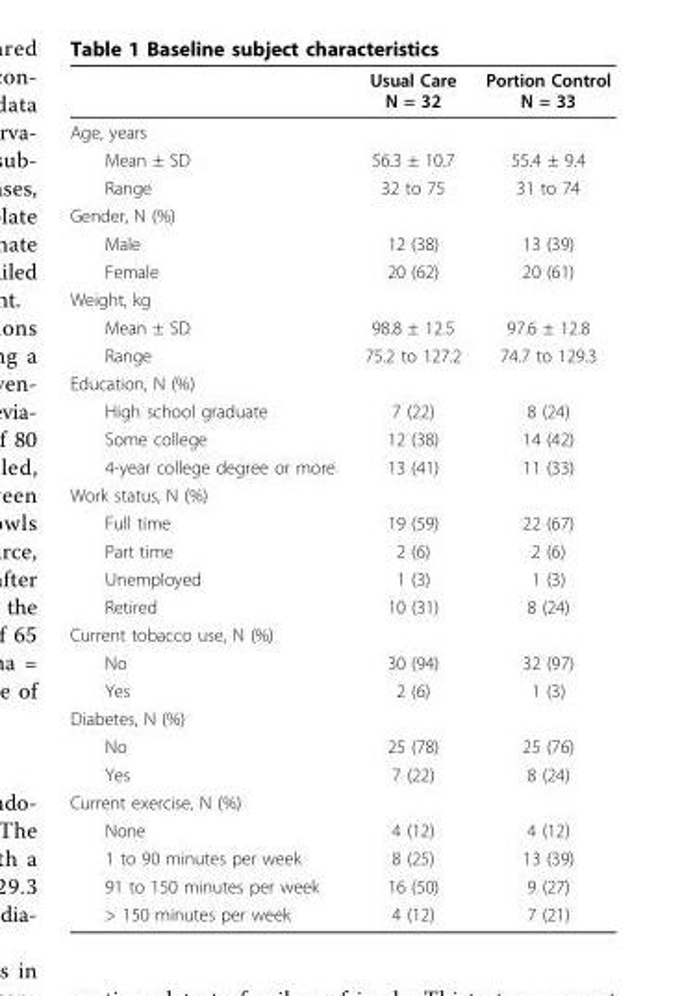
<table><thead><tr><td></td><td>Usual Care N = 32</td><td>Portion Control N = 33</td></tr></thead><tbody><tr><td colspan="3">Age, years</td></tr><tr><td>Mean ± SD</td><td>56.3 ± 10.7</td><td>55.4 ± 9.4</td></tr><tr><td>Range</td><td>32 to 75</td><td>31 to 74</td></tr><tr><td colspan="3">Gender, N (%)</td></tr><tr><td>Male</td><td>12 (38)</td><td>13 (39)</td></tr><tr><td>Female</td><td>20 (62)</td><td>20 (61)</td></tr><tr><td colspan="3">Weight, kg</td></tr><tr><td>Mean ± SD</td><td>98.8 ± 12.5</td><td>97.6 ± 12.8</td></tr><tr><td>Range</td><td>75.2 to 127.2</td><td>74.7 to 129.3</td></tr><tr><td colspan="3">Education, N (%)</td></tr><tr><td>High school graduate</td><td>7 (22)</td><td>8 (24)</td></tr><tr><td>Some college</td><td>12 (38)</td><td>14 (42)</td></tr><tr><td>4-year college degree or more</td><td>13 (41)</td><td>11 (33)</td></tr><tr><td colspan="3">Work status, N (%)</td></tr><tr><td>Full time</td><td>19 (59)</td><td>22 (67)</td></tr><tr><td>Part time</td><td>2 (6)</td><td>2 (6)</td></tr><tr><td>Unemployed</td><td>1 (3)</td><td>1 (3)</td></tr><tr><td>Retired</td><td>10 (31)</td><td>8 (24)</td></tr><tr><td colspan="3">Current tobacco use, N (%)</td></tr><tr><td>No</td><td>30 (94)</td><td>32 (97)</td></tr><tr><td>Yes</td><td>2 (6)</td><td>1 (3)</td></tr><tr><td colspan="3">Diabetes, N (%)</td></tr><tr><td>No</td><td>25 (78)</td><td>25 (76)</td></tr><tr><td>Yes</td><td>7 (22)</td><td>8 (24)</td></tr><tr><td colspan="3">Current exercise, N (%)</td></tr><tr><td>None</td><td>4 (12)</td><td>4 (12)</td></tr><tr><td>1 to 90 minutes per week</td><td>8 (25)</td><td>13 (39)</td></tr><tr><td>91 to 150 minutes per week</td><td>16 (50)</td><td>9 (27)</td></tr><tr><td>&gt; 150 minutes per week</td><td>4 (12)</td><td>7 (21)</td></tr></tbody></table>